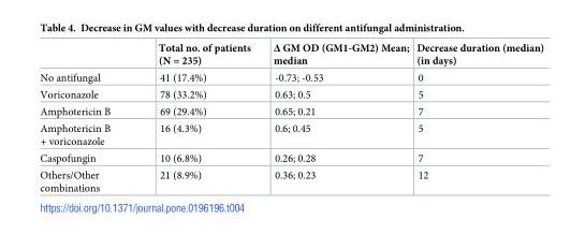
<table><thead><tr><td></td><td>Total no. of patients (N = 235)</td><td>Δ GM OD (GM1-GM2) Mean; median</td><td>Decrease duration (median) (in days)</td></tr></thead><tbody><tr><td>No antifungal</td><td>41 (17.4%)</td><td>-0.73; -0.53</td><td>0</td></tr><tr><td>Voriconazole</td><td>78 (33.2%)</td><td>0.63; 0.5</td><td>5</td></tr><tr><td>Amphotericin B</td><td>69 (29.4%)</td><td>0.65; 0.21</td><td>7</td></tr><tr><td>Amphotericin B + voriconazole</td><td>16 (4.3%)</td><td>0.6; 0.45</td><td>5</td></tr><tr><td>Caspofungin</td><td>10 (6.8%)</td><td>0.26; 0.28</td><td>7</td></tr><tr><td>Others/Other combinations</td><td>21 (8.9%)</td><td>0.36; 0.23</td><td>12</td></tr></tbody></table>